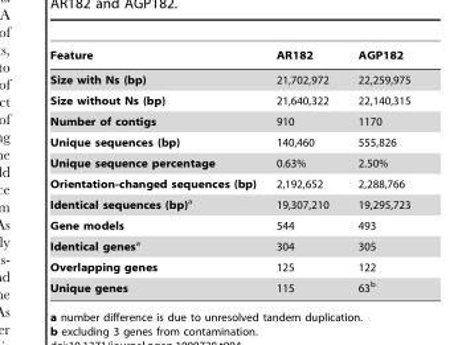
<table><thead><tr><td>Feature</td><td>AR182</td><td>AGP182</td></tr></thead><tbody><tr><td>Size with Ns (bp)</td><td>21,702,972</td><td>22,259,975</td></tr><tr><td>Size without Ns (bp)</td><td>21,640,322</td><td>22,140,315</td></tr><tr><td>Number of contigs</td><td>910</td><td>1170</td></tr><tr><td>Unique sequences (bp)</td><td>140,460</td><td>555,826</td></tr><tr><td>Unique sequence percentage</td><td>0.63%</td><td>2.50%</td></tr><tr><td>Orientation-changed sequences (bp)</td><td>2,192,652</td><td>2,288,766</td></tr><tr><td>Identical sequences (bp)a</td><td>19,307,210</td><td>19,295,723</td></tr><tr><td>Gene models</td><td>544</td><td>493</td></tr><tr><td>Identical genesa</td><td>304</td><td>305</td></tr><tr><td>Overlapping genes</td><td>125</td><td>122</td></tr><tr><td>Unique genes</td><td>115</td><td>63<sup>b</sup></td></tr></tbody></table>